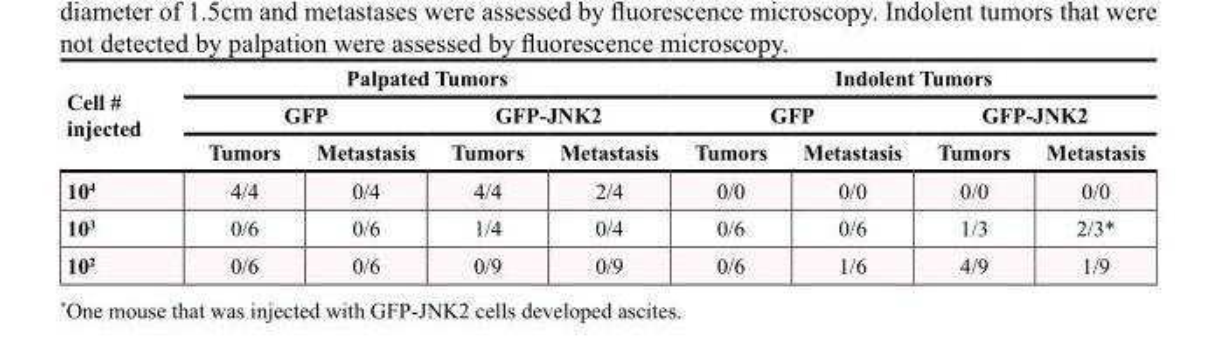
<table><thead><tr><td rowspan="3">Cell # injected</td><td colspan="4">Palpated Tumors</td><td colspan="4">Indolent Tumors</td></tr><tr><td colspan="2">GFP</td><td colspan="2">GFP-JNK2</td><td colspan="2">GFP</td><td colspan="2">GFP-JNK2</td></tr><tr><td>Tumors</td><td>Metastasis</td><td>Tumors</td><td>Metastasis</td><td>Tumors</td><td>Metastasis</td><td>Tumors</td><td>Metastasis</td></tr></thead><tbody><tr><td>10<sup>4</sup></td><td>4/4</td><td>0/4</td><td>4/4</td><td>2/4</td><td>0/0</td><td>0/0</td><td>0/0</td><td>0/0</td></tr><tr><td>10<sup>3</sup></td><td>0/6</td><td>0/6</td><td>1/4</td><td>0/4</td><td>0/6</td><td>0/6</td><td>1/3</td><td>2/3*</td></tr><tr><td>10<sup>2</sup></td><td>0/6</td><td>0/6</td><td>0/9</td><td>0/9</td><td>0/6</td><td>1/6</td><td>4/9</td><td>1/9</td></tr></tbody></table>